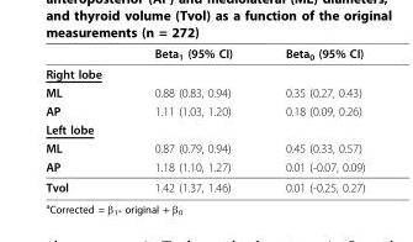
<table><thead><tr><td></td><td>Beta<sub>1</sub> (95% CI)</td><td>Beta<sub>0</sub> (95% CI)</td></tr></thead><tbody><tr><td colspan="3">Right lobe</td></tr><tr><td>ML</td><td>0.88 (0.83, 0.94)</td><td>0.35 (0.27, 0.43)</td></tr><tr><td>AP</td><td>1.11 (1.03, 1.20)</td><td>0.18 (0.09, 0.26)</td></tr><tr><td colspan="3">Left lobe</td></tr><tr><td>ML</td><td>0.87 (0.79, 0.94)</td><td>0.45 (0.33, 0.57)</td></tr><tr><td>AP</td><td>1.18 (1.10, 1.27)</td><td>0.01 (-0.07, 0.09)</td></tr><tr><td>Tvol</td><td>1.42 (1.37, 1.46)</td><td>0.01 (-0.25, 0.27)</td></tr></tbody></table>